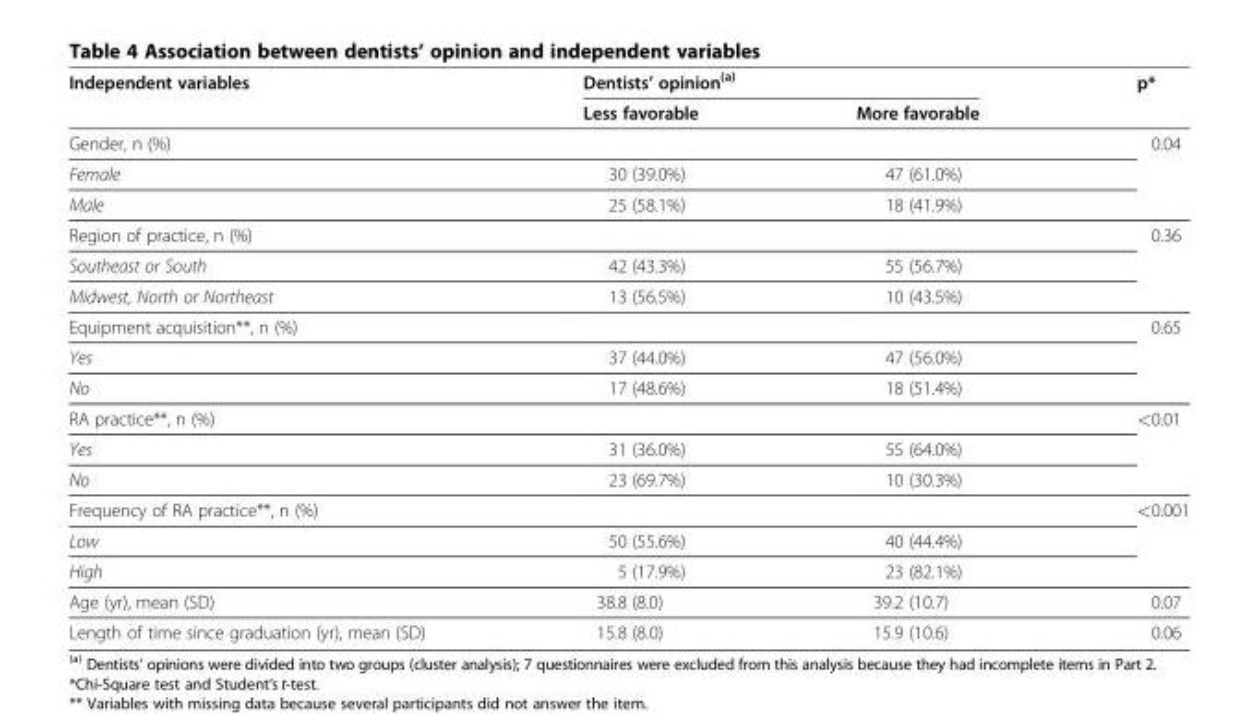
<table><thead><tr><td rowspan="2">Independent variables</td><td colspan="2">Dentists’ opinion<sup>(a)</sup></td><td rowspan="2">p*</td></tr><tr><td>Less favorable</td><td>More favorable</td></tr></thead><tbody><tr><td>Gender, n (%)</td><td></td><td></td><td>0.04</td></tr><tr><td>Female</td><td>30 (39.0%)</td><td>47 (61.0%)</td><td></td></tr><tr><td>Male</td><td>25 (58.1%)</td><td>18 (41.9%)</td><td></td></tr><tr><td>Region of practice, n (%)</td><td></td><td></td><td>0.36</td></tr><tr><td>Southeast or South</td><td>42 (43.3%)</td><td>55 (56.7%)</td><td></td></tr><tr><td>Midwest, North or Northeast</td><td>13 (56.5%)</td><td>10 (43.5%)</td><td></td></tr><tr><td>Equipment acquisition**, n (%)</td><td></td><td></td><td>0.65</td></tr><tr><td>Yes</td><td>37 (44.0%)</td><td>47 (56.0%)</td><td></td></tr><tr><td>No</td><td>17 (48.6%)</td><td>18 (51.4%)</td><td></td></tr><tr><td>RA practice**, n (%)</td><td></td><td></td><td>&lt;0.01</td></tr><tr><td>Yes</td><td>31 (36.0%)</td><td>55 (64.0%)</td><td></td></tr><tr><td>No</td><td>23 (69.7%)</td><td>10 (30.3%)</td><td></td></tr><tr><td>Frequency of RA practice**, n (%)</td><td></td><td></td><td>&lt;0.001</td></tr><tr><td>Low</td><td>50 (55.6%)</td><td>40 (44.4%)</td><td></td></tr><tr><td>High</td><td>5 (17.9%)</td><td>23 (82.1%)</td><td></td></tr><tr><td>Age (yr), mean (SD)</td><td>38.8 (8.0)</td><td>39.2 (10.7)</td><td>0.07</td></tr><tr><td>Length of time since graduation (yr), mean (SD)</td><td>15.8 (8.0)</td><td>15.9 (10.6)</td><td>0.06</td></tr></tbody></table>